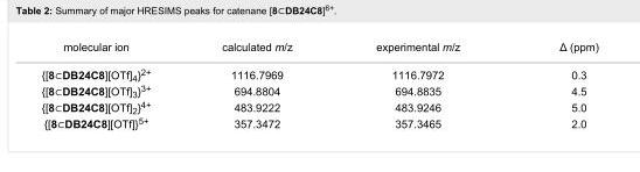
<table><tbody><tr><td>molecular ion</td><td>calculated m/z</td><td>experimental m/z</td><td>Δ (ppm)</td></tr><tr><td>{[8 DB24C8][OTf]<sub>4</sub>}<sup>2+</sup></td><td>1116.7969</td><td>1116.7972</td><td>0.3</td></tr><tr><td>{[8 DB24C8][OTf]<sub>3</sub>}<sup>3+</sup></td><td>694.8804</td><td>694.8835</td><td>4.5</td></tr><tr><td>{[8 DB24C8][OTf]<sub>2</sub>}<sup>4+</sup></td><td>483.9222</td><td>483.9246</td><td>5.0</td></tr><tr><td>{[8 DB24C8][OTf]}<sup>5+</sup></td><td>357.3472</td><td>357.3465</td><td>2.0</td></tr></tbody></table>